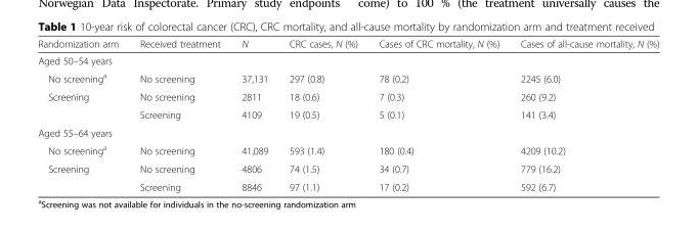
<table><thead><tr><td>Randomization arm</td><td>Received treatment</td><td>N</td><td>CRC cases, N (%)</td><td>Cases of CRC mortality, N (%)</td><td>Cases of all-cause mortality, N (%)</td></tr></thead><tbody><tr><td colspan="6">Aged 50–54 years</td></tr><tr><td>No screening<sup>a</sup></td><td>No screening</td><td>37,131</td><td>297 (0.8)</td><td>78 (0.2)</td><td>2245 (6.0)</td></tr><tr><td rowspan="2">Screening</td><td>No screening</td><td>2811</td><td>18 (0.6)</td><td>7 (0.3)</td><td>260 (9.2)</td></tr><tr><td>Screening</td><td>4109</td><td>19 (0.5)</td><td>5 (0.1)</td><td>141 (3.4)</td></tr><tr><td colspan="6">Aged 55–64 years</td></tr><tr><td>No screening<sup>a</sup></td><td>No screening</td><td>41,089</td><td>593 (1.4)</td><td>180 (0.4)</td><td>4209 (10.2)</td></tr><tr><td rowspan="2">Screening</td><td>No screening</td><td>4806</td><td>74 (1.5)</td><td>34 (0.7)</td><td>779 (16.2)</td></tr><tr><td>Screening</td><td>8846</td><td>97 (1.1)</td><td>17 (0.2)</td><td>592 (6.7)</td></tr></tbody></table>